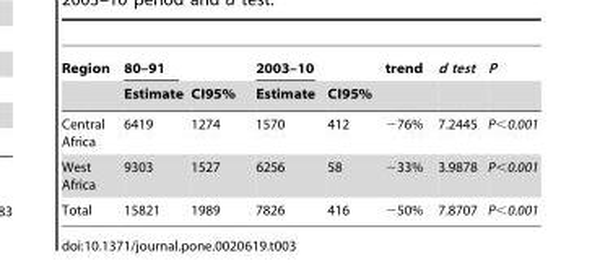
<table><thead><tr><td rowspan="2">Region</td><td rowspan="2">80–91 Estimate</td><td rowspan="2">CI95%</td><td rowspan="2">2003–10 Estimate</td><td rowspan="2">CI95%</td><td rowspan="2">trend</td><td rowspan="2">d test</td><td rowspan="2">P</td></tr><tr></tr></thead><tbody><tr><td>Central Africa</td><td>6419</td><td>1274</td><td>1570</td><td>412</td><td>−76%</td><td>7.2445</td><td>P&lt;0.001</td></tr><tr><td>West Africa</td><td>9303</td><td>1527</td><td>6256</td><td>58</td><td>−33%</td><td>3.9878</td><td>P&lt;0.001</td></tr><tr><td>Total</td><td>15821</td><td>1989</td><td>7826</td><td>416</td><td>−50%</td><td>7.8707</td><td>P&lt;0.001</td></tr></tbody></table>